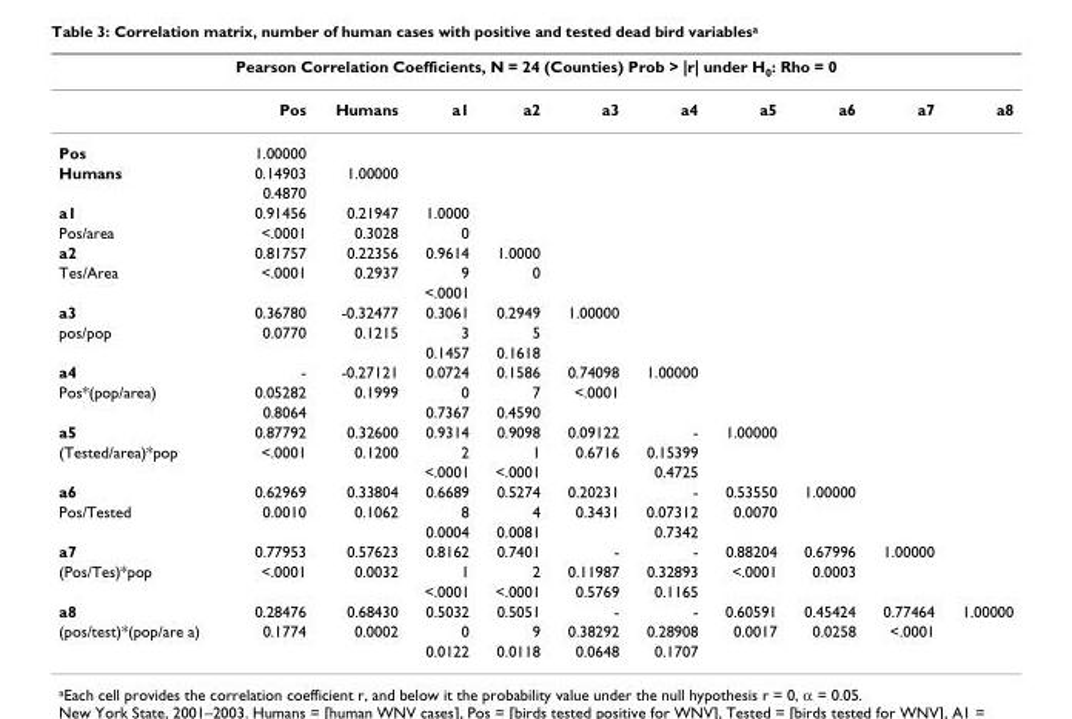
<table><thead><tr><td colspan="11">Pearson Correlation Coefficients, N = 24 (Counties) Prob &gt; |r| under H<sub>0</sub>: Rho = 0</td></tr><tr><td></td><td>Pos</td><td>Humans</td><td>a1</td><td>a2</td><td>a3</td><td>a4</td><td>a5</td><td>a6</td><td>a7</td><td>a8</td></tr></thead><tbody><tr><td>Pos</td><td>1.00000</td><td></td><td></td><td></td><td></td><td></td><td></td><td></td><td></td><td></td></tr><tr><td rowspan="2">Humans</td><td>0.14903</td><td>1.00000</td><td></td><td></td><td></td><td></td><td></td><td></td><td></td><td></td></tr><tr><td>0.4870</td><td></td><td></td><td></td><td></td><td></td><td></td><td></td><td></td><td></td></tr><tr><td>a1</td><td>0.91456</td><td>0.21947</td><td>1.0000</td><td></td><td></td><td></td><td></td><td></td><td></td><td></td></tr><tr><td>Pos/area</td><td>&lt;.0001</td><td>0.3028</td><td>0</td><td></td><td></td><td></td><td></td><td></td><td></td><td></td></tr><tr><td>a2</td><td>0.81757</td><td>0.22356</td><td>0.9614</td><td>1.0000</td><td></td><td></td><td></td><td></td><td></td><td></td></tr><tr><td rowspan="2">Tes/Area</td><td>&lt;.0001</td><td>0.2937</td><td>9</td><td>0</td><td></td><td></td><td></td><td></td><td></td><td></td></tr><tr><td></td><td></td><td>&lt;.0001</td><td></td><td></td><td></td><td></td><td></td><td></td><td></td></tr><tr><td>a3</td><td>0.36780</td><td>-0.32477</td><td>0.3061</td><td>0.2949</td><td>1.00000</td><td></td><td></td><td></td><td></td><td></td></tr><tr><td rowspan="2">pos/pop</td><td>0.0770</td><td>0.1215</td><td>3</td><td>5</td><td></td><td></td><td></td><td></td><td></td><td></td></tr><tr><td></td><td></td><td>0.1457</td><td>0.1618</td><td></td><td></td><td></td><td></td><td></td><td></td></tr><tr><td>a4</td><td>-</td><td>-0.27121</td><td>0.0724</td><td>0.1586</td><td>0.74098</td><td>1.00000</td><td></td><td></td><td></td><td></td></tr><tr><td rowspan="2">Pos*(pop/area)</td><td>0.05282</td><td>0.1999</td><td>0</td><td>7</td><td>&lt;.0001</td><td></td><td></td><td></td><td></td><td></td></tr><tr><td>0.8064</td><td></td><td>0.7367</td><td>0.4590</td><td></td><td></td><td></td><td></td><td></td><td></td></tr><tr><td>a5</td><td>0.87792</td><td>0.32600</td><td>0.9314</td><td>0.9098</td><td>0.09122</td><td>-</td><td>1.00000</td><td></td><td></td><td></td></tr><tr><td rowspan="2">(Tested/area)*pop</td><td>&lt;.0001</td><td>0.1200</td><td>2</td><td>1</td><td>0.6716</td><td>0.15399</td><td></td><td></td><td></td><td></td></tr><tr><td></td><td></td><td>&lt;.0001</td><td>&lt;.0001</td><td></td><td>0.4725</td><td></td><td></td><td></td><td></td></tr><tr><td>a6</td><td>0.62969</td><td>0.33804</td><td>0.6689</td><td>0.5274</td><td>0.20231</td><td>-</td><td>0.53550</td><td>1.00000</td><td></td><td></td></tr><tr><td rowspan="2">Pos/Tested</td><td>0.0010</td><td>0.1062</td><td>8</td><td>4</td><td>0.3431</td><td>0.07312</td><td>0.0070</td><td></td><td></td><td></td></tr><tr><td></td><td></td><td>0.0004</td><td>0.0081</td><td></td><td>0.7342</td><td></td><td></td><td></td><td></td></tr><tr><td>a7</td><td>0.77953</td><td>0.57623</td><td>0.8162</td><td>0.7401</td><td>-</td><td>-</td><td>0.88204</td><td>0.67996</td><td>1.00000</td><td></td></tr><tr><td rowspan="2">(Pos/Tes)*pop</td><td>&lt;.0001</td><td>0.0032</td><td>1</td><td>2</td><td>0.11987</td><td>0.32893</td><td>&lt;.0001</td><td>0.0003</td><td></td><td></td></tr><tr><td></td><td></td><td>&lt;.0001</td><td>&lt;.0001</td><td>0.5769</td><td>0.1165</td><td></td><td></td><td></td><td></td></tr><tr><td>a8</td><td>0.28476</td><td>0.68430</td><td>0.5032</td><td>0.5051</td><td>-</td><td>-</td><td>0.60591</td><td>0.45424</td><td>0.77464</td><td>1.00000</td></tr><tr><td rowspan="2">(pos/test)*(pop/are a)</td><td>0.1774</td><td>0.0002</td><td>0</td><td>9</td><td>0.38292</td><td>0.28908</td><td>0.0017</td><td>0.0258</td><td>&lt;.0001</td><td></td></tr><tr><td></td><td></td><td>0.0122</td><td>0.0118</td><td>0.0648</td><td>0.1707</td><td></td><td></td><td></td><td></td></tr></tbody></table>